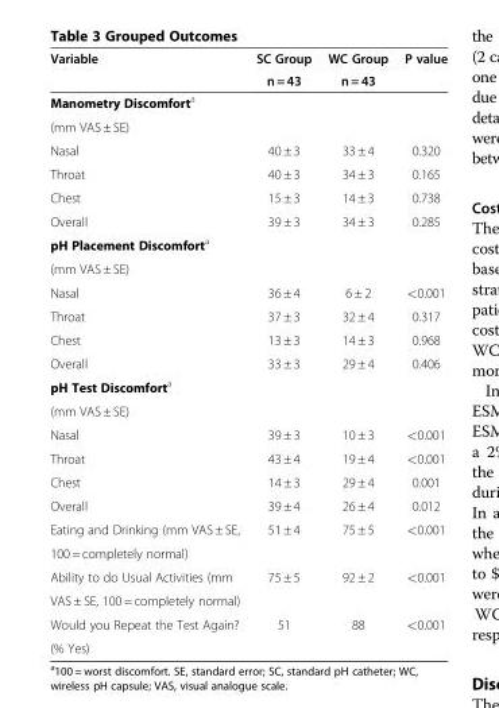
<table><thead><tr><td rowspan="2">Variable</td><td rowspan="2">SC Group n = 43</td><td rowspan="2">WC Group n = 43</td><td rowspan="2">P value</td></tr><tr></tr></thead><tbody><tr><td colspan="4">Manometry Discomfort<sup>a</sup></td></tr><tr><td colspan="4">(mm VAS ± SE)</td></tr><tr><td>Nasal</td><td>40 ± 3</td><td>33 ± 4</td><td>0.320</td></tr><tr><td>Throat</td><td>40 ± 3</td><td>34 ± 3</td><td>0.165</td></tr><tr><td>Chest</td><td>15 ± 3</td><td>14 ± 3</td><td>0.738</td></tr><tr><td>Overall</td><td>39 ± 3</td><td>34 ± 3</td><td>0.285</td></tr><tr><td colspan="4">pH Placement Discomfort<sup>a</sup></td></tr><tr><td colspan="4">(mm VAS ± SE)</td></tr><tr><td>Nasal</td><td>36 ± 4</td><td>6 ± 2</td><td>&lt;0.001</td></tr><tr><td>Throat</td><td>37 ± 3</td><td>32 ± 4</td><td>0.317</td></tr><tr><td>Chest</td><td>13 ± 3</td><td>14 ± 3</td><td>0.968</td></tr><tr><td>Overall</td><td>33 ± 3</td><td>29 ± 4</td><td>0.406</td></tr><tr><td colspan="4">pH Test Discomfort<sup>a</sup></td></tr><tr><td colspan="4">(mm VAS ± SE)</td></tr><tr><td>Nasal</td><td>39 ± 3</td><td>10 ± 3</td><td>&lt;0.001</td></tr><tr><td>Throat</td><td>43 ± 4</td><td>19 ± 4</td><td>&lt;0.001</td></tr><tr><td>Chest</td><td>14 ± 3</td><td>29 ± 4</td><td>0.001</td></tr><tr><td>Overall</td><td>39 ± 4</td><td>26 ± 4</td><td>0.012</td></tr><tr><td>Eating and Drinking (mm VAS ± SE,</td><td>51 ± 4</td><td>75 ± 5</td><td>&lt;0.001</td></tr><tr><td colspan="4">100 = completely normal)</td></tr><tr><td>Ability to do Usual Activities (mm</td><td>75 ± 5</td><td>92 ± 2</td><td>&lt;0.001</td></tr><tr><td colspan="4">VAS ± SE, 100 = completely normal)</td></tr><tr><td>Would you Repeat the Test Again?</td><td>51</td><td>88</td><td>&lt;0.001</td></tr><tr><td>(% Yes)</td><td></td><td></td><td></td></tr></tbody></table>